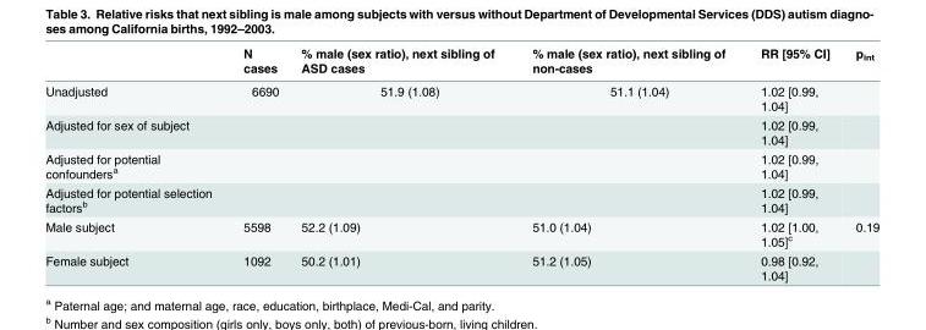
<table><thead><tr><td></td><td>N cases</td><td>% male (sex ratio), next sibling of ASD cases</td><td>% male (sex ratio), next sibling of non-cases</td><td>RR [95% CI]</td><td>p<sub>int</sub></td></tr></thead><tbody><tr><td>Unadjusted</td><td>6690</td><td>51.9 (1.08)</td><td>51.1 (1.04)</td><td>1.02 [0.99, 1.04]</td><td></td></tr><tr><td>Adjusted for sex of subject</td><td></td><td></td><td></td><td>1.02 [0.99, 1.04]</td><td></td></tr><tr><td>Adjusted for potential confounders<sup>a</sup></td><td></td><td></td><td></td><td>1.02 [0.99, 1.04]</td><td></td></tr><tr><td>Adjusted for potential selection factors<sup>b</sup></td><td></td><td></td><td></td><td>1.02 [0.99, 1.04]</td><td></td></tr><tr><td>Male subject</td><td>5598</td><td>52.2 (1.09)</td><td>51.0 (1.04)</td><td>1.02 [1.00, 1.05]<sup>c</sup></td><td>0.19</td></tr><tr><td>Female subject</td><td>1092</td><td>50.2 (1.01)</td><td>51.2 (1.05)</td><td>0.98 [0.92, 1.04]</td><td></td></tr></tbody></table>